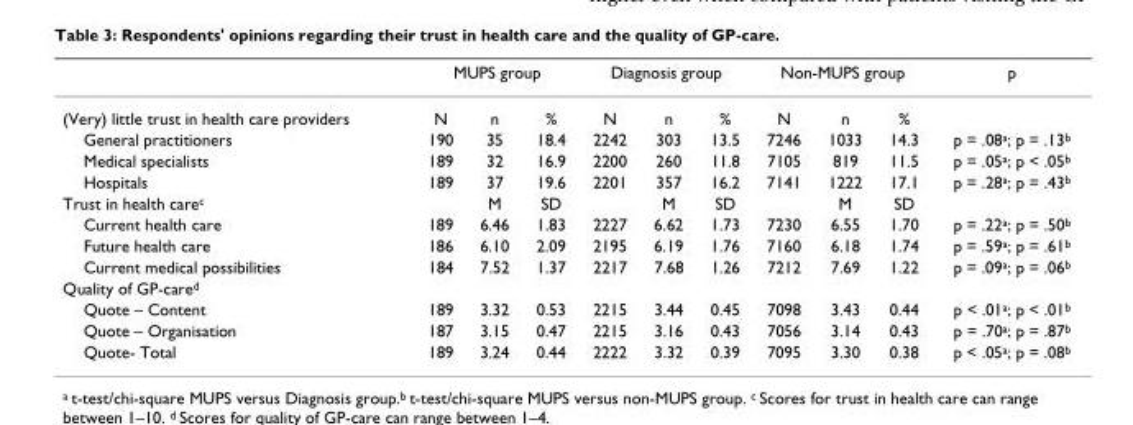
<table><thead><tr><td rowspan="2">(Very) little trust in health care providers</td><td colspan="3">MUPS group</td><td colspan="3">Diagnosis group</td><td colspan="3">Non-MUPS group</td><td rowspan="2">p</td></tr><tr><td>N</td><td>n</td><td>%</td><td>N</td><td>n</td><td>%</td><td>N</td><td>n</td><td>%</td></tr></thead><tbody><tr><td>General practitioners</td><td>190</td><td>35</td><td>18.4</td><td>2242</td><td>303</td><td>13.5</td><td>7246</td><td>1033</td><td>14.3</td><td>p = .08<sup>a</sup>; p = .13<sup>b</sup></td></tr><tr><td>Medical specialists</td><td>189</td><td>32</td><td>16.9</td><td>2200</td><td>260</td><td>11.8</td><td>7105</td><td>819</td><td>11.5</td><td>p = .05<sup>a</sup>; p &lt; .05<sup>b</sup></td></tr><tr><td>Hospitals</td><td>189</td><td>37</td><td>19.6</td><td>2201</td><td>357</td><td>16.2</td><td>7141</td><td>1222</td><td>17.1</td><td>p = .28<sup>a</sup>; p = .43<sup>b</sup></td></tr><tr><td>Trust in health care<sup>c</sup></td><td></td><td>M</td><td>SD</td><td></td><td>M</td><td>SD</td><td></td><td>M</td><td>SD</td><td></td></tr><tr><td>Current health care</td><td>189</td><td>6.46</td><td>1.83</td><td>2227</td><td>6.62</td><td>1.73</td><td>7230</td><td>6.55</td><td>1.70</td><td>p = .22<sup>a</sup>; p = .50<sup>b</sup></td></tr><tr><td>Future health care</td><td>186</td><td>6.10</td><td>2.09</td><td>2195</td><td>6.19</td><td>1.76</td><td>7160</td><td>6.18</td><td>1.74</td><td>p = .59<sup>a</sup>; p = .61<sup>b</sup></td></tr><tr><td>Current medical possibilities</td><td>184</td><td>7.52</td><td>1.37</td><td>2217</td><td>7.68</td><td>1.26</td><td>7212</td><td>7.69</td><td>1.22</td><td>p = .09<sup>a</sup>; p = .06<sup>b</sup></td></tr><tr><td colspan="11">Quality of GP-care<sup>d</sup></td></tr><tr><td>Quote – Content</td><td>189</td><td>3.32</td><td>0.53</td><td>2215</td><td>3.44</td><td>0.45</td><td>7098</td><td>3.43</td><td>0.44</td><td>p &lt; .01<sup>a</sup>; p &lt; .01<sup>b</sup></td></tr><tr><td>Quote – Organisation</td><td>187</td><td>3.15</td><td>0.47</td><td>2215</td><td>3.16</td><td>0.43</td><td>7056</td><td>3.14</td><td>0.43</td><td>p = .70<sup>a</sup>; p = .87<sup>b</sup></td></tr><tr><td>Quote- Total</td><td>189</td><td>3.24</td><td>0.44</td><td>2222</td><td>3.32</td><td>0.39</td><td>7095</td><td>3.30</td><td>0.38</td><td>p &lt; .05<sup>a</sup>; p = .08<sup>b</sup></td></tr></tbody></table>